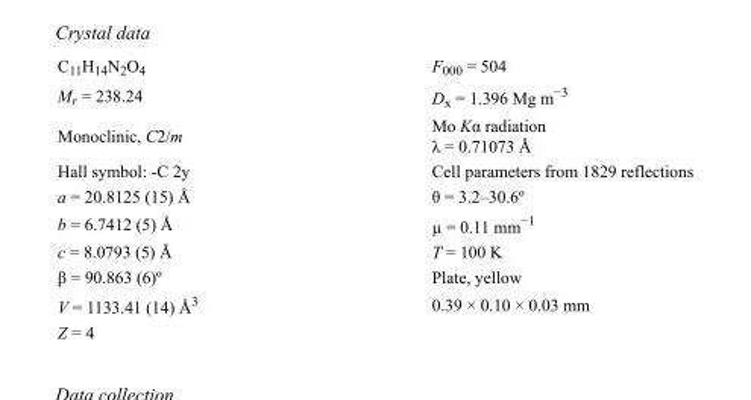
<table><tbody><tr><td>C<sub>11</sub>H<sub>14</sub>N<sub>2</sub>O<sub>4</sub></td><td>F000 = 504</td></tr><tr><td>M<sub>r</sub> = 238.24</td><td>D<sub>x</sub> = 1.396 Mg m<sup>−3</sup></td></tr><tr><td>Monoclinic, C2/m</td><td>Mo Kα radiation λ = 0.71073 Å</td></tr><tr><td>Hall symbol: -C 2y</td><td>Cell parameters from 1829 reflections</td></tr><tr><td>a = 20.8125 (15) Å</td><td>θ = 3.2–30.6º</td></tr><tr><td>b = 6.7412 (5) Å</td><td>µ = 0.11 mm<sup>−1</sup></td></tr><tr><td>c = 8.0793 (5) Å</td><td>T = 100 K</td></tr><tr><td>β = 90.863 (6)º</td><td>Plate, yellow</td></tr><tr><td>V = 1133.41 (14) Å<sup>3</sup></td><td>0.39 × 0.10 × 0.03 mm</td></tr><tr><td>Z = 4</td><td></td></tr></tbody></table>